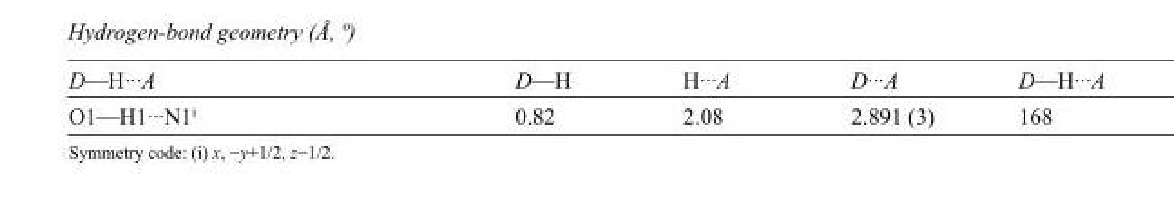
<table><tbody><tr><td>D—H···A</td><td>D—H</td><td>H···A</td><td>D···A</td><td>D—H···A</td></tr><tr><td>O1—H1···N1<sup>i</sup></td><td>0.82</td><td>2.08</td><td>2.891 (3)</td><td>168</td></tr></tbody></table>